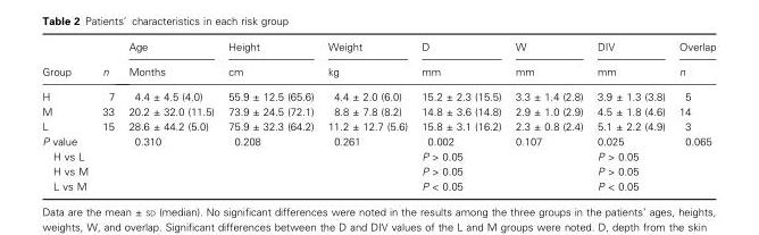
<table><thead><tr><td rowspan="2">Group</td><td rowspan="2">n</td><td rowspan="2">Age Months</td><td rowspan="2">Height cm</td><td rowspan="2">Weight kg</td><td rowspan="2">D mm</td><td rowspan="2">W mm</td><td rowspan="2">DIV mm</td><td rowspan="2">Overlap n</td></tr><tr></tr></thead><tbody><tr><td>H</td><td>7</td><td>4.4 ± 4.5 (4.0)</td><td>55.9 ± 12.5 (65.6)</td><td>4.4 ± 2.0 (6.0)</td><td>15.2 ± 2.3 (15.5)</td><td>3.3 ± 1.4 (2.8)</td><td>3.9 ± 1.3 (3.8)</td><td>5</td></tr><tr><td>M</td><td>33</td><td>20.2 ± 32.0 (11.5)</td><td>73.9 ± 24.5 (72.1)</td><td>8.8 ± 7.8 (8.2)</td><td>14.8 ± 3.6 (14.8)</td><td>2.9 ± 1.0 (2.9)</td><td>4.5 ± 1.8 (4.6)</td><td>14</td></tr><tr><td>L</td><td>15</td><td>28.6 ± 44.2 (5.0)</td><td>75.9 ± 32.3 (64.2)</td><td>11.2 ± 12.7 (5.6)</td><td>15.8 ± 3.1 (16.2)</td><td>2.3 ± 0.8 (2.4)</td><td>5.1 ± 2.2 (4.9)</td><td>3</td></tr><tr><td>P value</td><td></td><td>0.310</td><td>0.208</td><td>0.261</td><td>0.002</td><td>0.107</td><td>0.025</td><td>0.065</td></tr><tr><td>H vs L</td><td></td><td></td><td></td><td></td><td>P &gt; 0.05</td><td></td><td>P &gt; 0.05</td><td></td></tr><tr><td>H vs M</td><td></td><td></td><td></td><td></td><td>P &gt; 0.05</td><td></td><td>P &gt; 0.05</td><td></td></tr><tr><td>L vs M</td><td></td><td></td><td></td><td></td><td>P &lt; 0.05</td><td></td><td>P &lt; 0.05</td><td></td></tr></tbody></table>